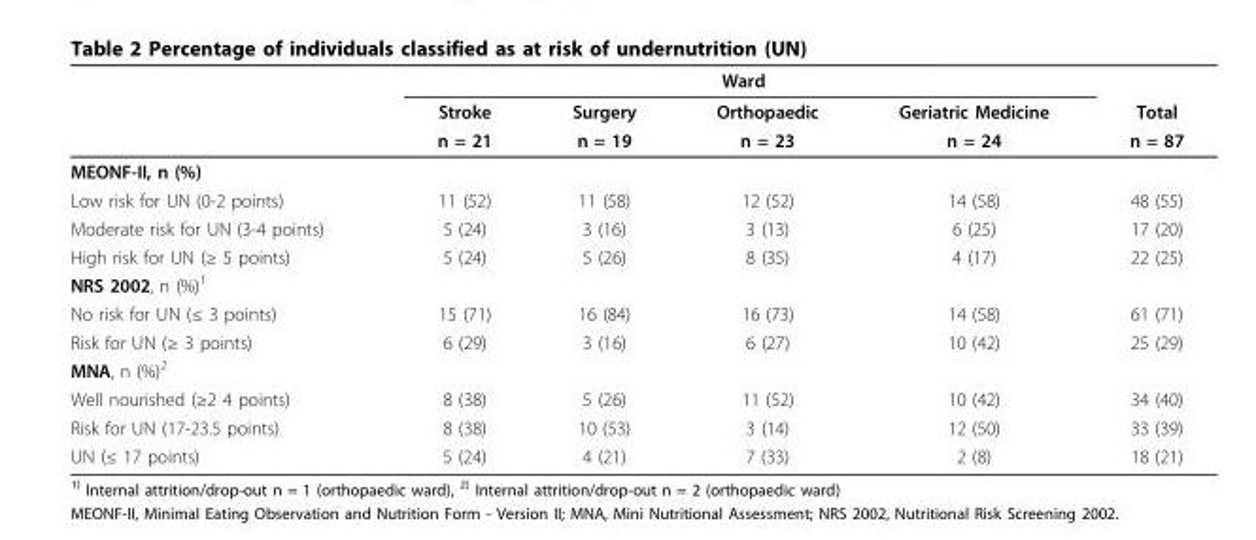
<table><thead><tr><td rowspan="3"></td><td colspan="4">Ward</td><td rowspan="3">Total n = 87</td></tr><tr><td rowspan="2">Stroke n = 21</td><td rowspan="2">Surgery n = 19</td><td rowspan="2">Orthopaedic n = 23</td><td rowspan="2">Geriatric Medicine n = 24</td></tr><tr></tr></thead><tbody><tr><td colspan="6">MEONF-II, n (%)</td></tr><tr><td>Low risk for UN (0-2 points)</td><td>11 (52)</td><td>11 (58)</td><td>12 (52)</td><td>14 (58)</td><td>48 (55)</td></tr><tr><td>Moderate risk for UN (3-4 points)</td><td>5 (24)</td><td>3 (16)</td><td>3 (13)</td><td>6 (25)</td><td>17 (20)</td></tr><tr><td>High risk for UN (≥ 5 points)</td><td>5 (24)</td><td>5 (26)</td><td>8 (35)</td><td>4 (17)</td><td>22 (25)</td></tr><tr><td colspan="6">NRS 2002, n (%)<sup>1</sup></td></tr><tr><td>No risk for UN (≤ 3 points)</td><td>15 (71)</td><td>16 (84)</td><td>16 (73)</td><td>14 (58)</td><td>61 (71)</td></tr><tr><td>Risk for UN (≥ 3 points)</td><td>6 (29)</td><td>3 (16)</td><td>6 (27)</td><td>10 (42)</td><td>25 (29)</td></tr><tr><td colspan="6">MNA, n (%)<sup>2</sup></td></tr><tr><td>Well nourished (≥2 4 points)</td><td>8 (38)</td><td>5 (26)</td><td>11 (52)</td><td>10 (42)</td><td>34 (40)</td></tr><tr><td>Risk for UN (17-23.5 points)</td><td>8 (38)</td><td>10 (53)</td><td>3 (14)</td><td>12 (50)</td><td>33 (39)</td></tr><tr><td>UN (≤ 17 points)</td><td>5 (24)</td><td>4 (21)</td><td>7 (33)</td><td>2 (8)</td><td>18 (21)</td></tr></tbody></table>